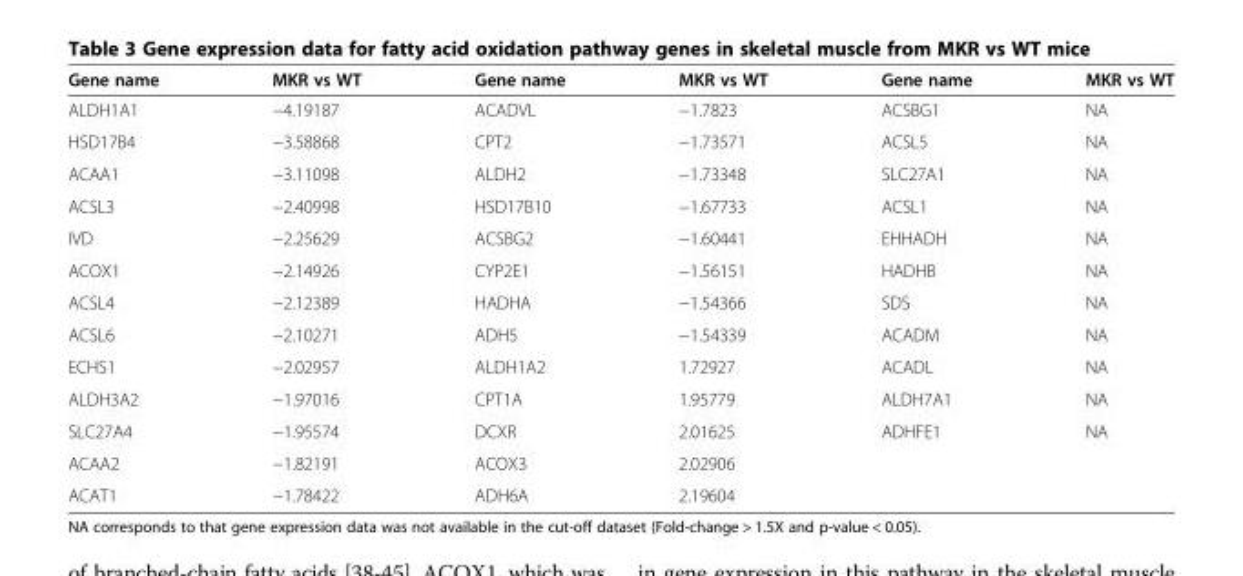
<table><thead><tr><td>Gene name</td><td>MKR vs WT</td><td>Gene name</td><td>MKR vs WT</td><td>Gene name</td><td>MKR vs WT</td></tr></thead><tbody><tr><td>ALDH1A1</td><td>−4.19187</td><td>ACADVL</td><td>−1.7823</td><td>ACSBG1</td><td>NA</td></tr><tr><td>HSD17B4</td><td>−3.58868</td><td>CPT2</td><td>−1.73571</td><td>ACSL5</td><td>NA</td></tr><tr><td>ACAA1</td><td>−3.11098</td><td>ALDH2</td><td>−1.73348</td><td>SLC27A1</td><td>NA</td></tr><tr><td>ACSL3</td><td>−2.40998</td><td>HSD17B10</td><td>−1.67733</td><td>ACSL1</td><td>NA</td></tr><tr><td>IVD</td><td>−2.25629</td><td>ACSBG2</td><td>−1.60441</td><td>EHHADH</td><td>NA</td></tr><tr><td>ACOX1</td><td>−2.14926</td><td>CYP2E1</td><td>−1.56151</td><td>HADHB</td><td>NA</td></tr><tr><td>ACSL4</td><td>−2.12389</td><td>HADHA</td><td>−1.54366</td><td>SDS</td><td>NA</td></tr><tr><td>ACSL6</td><td>−2.10271</td><td>ADH5</td><td>−1.54339</td><td>ACADM</td><td>NA</td></tr><tr><td>ECHS1</td><td>−2.02957</td><td>ALDH1A2</td><td>1.72927</td><td>ACADL</td><td>NA</td></tr><tr><td>ALDH3A2</td><td>−1.97016</td><td>CPT1A</td><td>1.95779</td><td>ALDH7A1</td><td>NA</td></tr><tr><td>SLC27A4</td><td>−1.95574</td><td>DCXR</td><td>2.01625</td><td>ADHFE1</td><td>NA</td></tr><tr><td>ACAA2</td><td>−1.82191</td><td>ACOX3</td><td>2.02906</td><td></td><td></td></tr><tr><td>ACAT1</td><td>−1.78422</td><td>ADH6A</td><td>2.19604</td><td></td><td></td></tr></tbody></table>